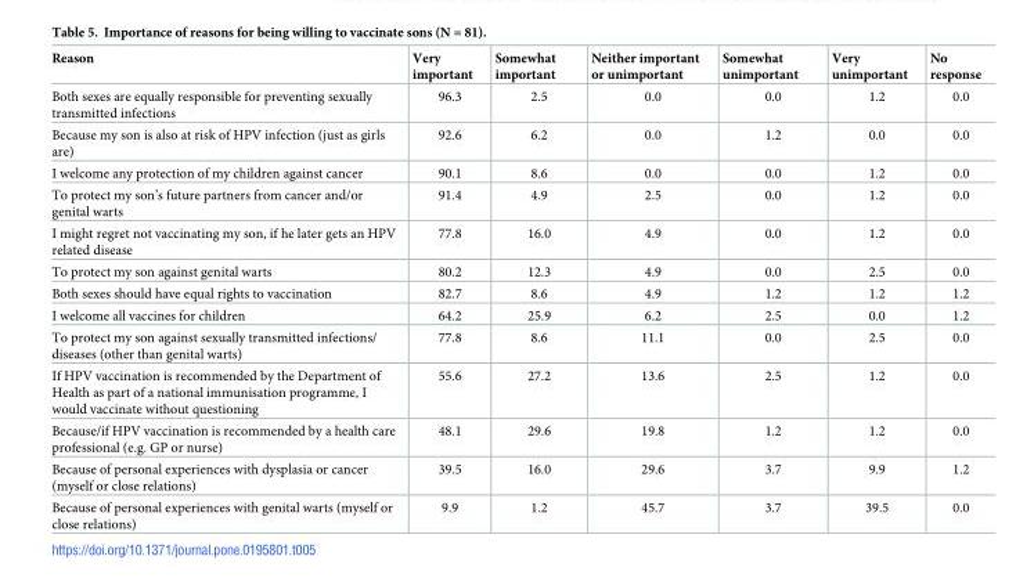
<table><thead><tr><td>Reason</td><td>Very important</td><td>Somewhat important</td><td>Neither important or unimportant</td><td>Somewhat unimportant</td><td>Very unimportant</td><td>No response</td></tr></thead><tbody><tr><td>Both sexes are equally responsible for preventing sexually transmitted infections</td><td>96.3</td><td>2.5</td><td>0.0</td><td>0.0</td><td>1.2</td><td>0.0</td></tr><tr><td>Because my son is also at risk of HPV infection (just as girls are)</td><td>92.6</td><td>6.2</td><td>0.0</td><td>1.2</td><td>0.0</td><td>0.0</td></tr><tr><td>I welcome any protection of my children against cancer</td><td>90.1</td><td>8.6</td><td>0.0</td><td>0.0</td><td>1.2</td><td>0.0</td></tr><tr><td>To protect my son’s future partners from cancer and/or genital warts</td><td>91.4</td><td>4.9</td><td>2.5</td><td>0.0</td><td>1.2</td><td>0.0</td></tr><tr><td>I might regret not vaccinating my son, if he later gets an HPV related disease</td><td>77.8</td><td>16.0</td><td>4.9</td><td>0.0</td><td>1.2</td><td>0.0</td></tr><tr><td>To protect my son against genital warts</td><td>80.2</td><td>12.3</td><td>4.9</td><td>0.0</td><td>2.5</td><td>0.0</td></tr><tr><td>Both sexes should have equal rights to vaccination</td><td>82.7</td><td>8.6</td><td>4.9</td><td>1.2</td><td>1.2</td><td>1.2</td></tr><tr><td>I welcome all vaccines for children</td><td>64.2</td><td>25.9</td><td>6.2</td><td>2.5</td><td>0.0</td><td>1.2</td></tr><tr><td>To protect my son against sexually transmitted infections/ diseases (other than genital warts)</td><td>77.8</td><td>8.6</td><td>11.1</td><td>0.0</td><td>2.5</td><td>0.0</td></tr><tr><td>If HPV vaccination is recommended by the Department of Health as part of a national immunisation programme, I would vaccinate without questioning</td><td>55.6</td><td>27.2</td><td>13.6</td><td>2.5</td><td>1.2</td><td>0.0</td></tr><tr><td>Because/if HPV vaccination is recommended by a health care professional (e.g. GP or nurse)</td><td>48.1</td><td>29.6</td><td>19.8</td><td>1.2</td><td>1.2</td><td>0.0</td></tr><tr><td>Because of personal experiences with dysplasia or cancer (myself or close relations)</td><td>39.5</td><td>16.0</td><td>29.6</td><td>3.7</td><td>9.9</td><td>1.2</td></tr><tr><td>Because of personal experiences with genital warts (myself or close relations)</td><td>9.9</td><td>1.2</td><td>45.7</td><td>3.7</td><td>39.5</td><td>0.0</td></tr></tbody></table>